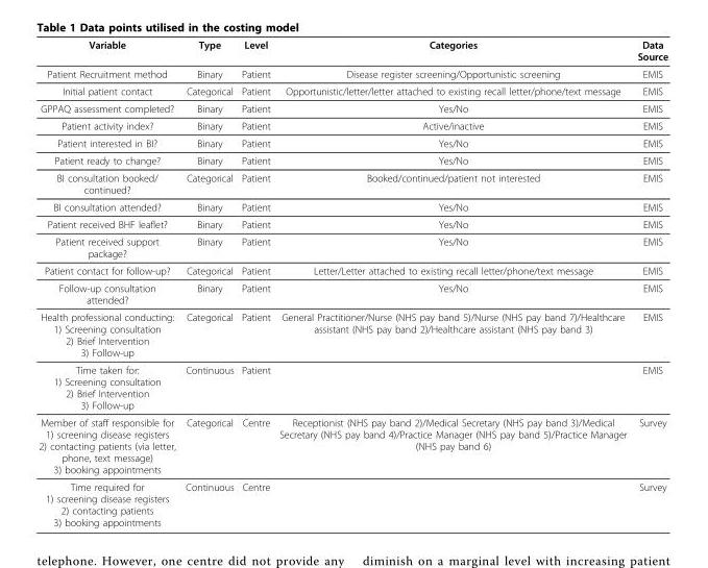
<table><thead><tr><td>Variable</td><td>Type</td><td>Level</td><td>Categories</td><td>Data Source</td></tr></thead><tbody><tr><td>Patient Recruitment method</td><td>Binary</td><td>Patient</td><td>Disease register screening/Opportunistic screening</td><td>EMIS</td></tr><tr><td>Initial patient contact</td><td>Categorical</td><td>Patient</td><td>Opportunistic/letter/letter attached to existing recall letter/phone/text message</td><td>EMIS</td></tr><tr><td>GPPAQ assessment completed?</td><td>Binary</td><td>Patient</td><td>Yes/No</td><td>EMIS</td></tr><tr><td>Patient activity index?</td><td>Binary</td><td>Patient</td><td>Active/inactive</td><td>EMIS</td></tr><tr><td>Patient interested in BI?</td><td>Binary</td><td>Patient</td><td>Yes/No</td><td>EMIS</td></tr><tr><td>Patient ready to change?</td><td>Binary</td><td>Patient</td><td>Yes/No</td><td>EMIS</td></tr><tr><td>BI consultation booked/ continued?</td><td>Categorical</td><td>Patient</td><td>Booked/continued/patient not interested</td><td>EMIS</td></tr><tr><td>BI consultation attended?</td><td>Binary</td><td>Patient</td><td>Yes/No</td><td>EMIS</td></tr><tr><td>Patient received BHF leaflet?</td><td>Binary</td><td>Patient</td><td>Yes/No</td><td>EMIS</td></tr><tr><td>Patient received support package?</td><td>Binary</td><td>Patient</td><td>Yes/No</td><td>EMIS</td></tr><tr><td>Patient contact for follow-up?</td><td>Categorical</td><td>Patient</td><td>Letter/Letter attached to existing recall letter/phone/text message</td><td>EMIS</td></tr><tr><td>Follow-up consultation attended?</td><td>Binary</td><td>Patient</td><td>Yes/No</td><td>EMIS</td></tr><tr><td>Health professional conducting: 1) Screening consultation 2) Brief Intervention 3) Follow-up</td><td>Categorical</td><td>Patient</td><td>General Practitioner/Nurse (NHS pay band 5)/Nurse (NHS pay band 7)/Healthcare assistant (NHS pay band 2)/Healthcare assistant (NHS pay band 3)</td><td>EMIS</td></tr><tr><td>Time taken for: 1) Screening consultation 2) Brief Intervention 3) Follow-up</td><td>Continuous</td><td>Patient</td><td></td><td>EMIS</td></tr><tr><td>Member of staff responsible for 1) screening disease registers 2) contacting patients (via letter, phone, text message) 3) booking appointments</td><td>Categorical</td><td>Centre</td><td>Receptionist (NHS pay band 2)/Medical Secretary (NHS pay band 3)/Medical Secretary (NHS pay band 4)/Practice Manager (NHS pay band 5)/Practice Manager (NHS pay band 6)</td><td>Survey</td></tr><tr><td>Time required for 1) screening disease registers 2) contacting patients 3) booking appointments</td><td>Continuous</td><td>Centre</td><td></td><td>Survey</td></tr></tbody></table>